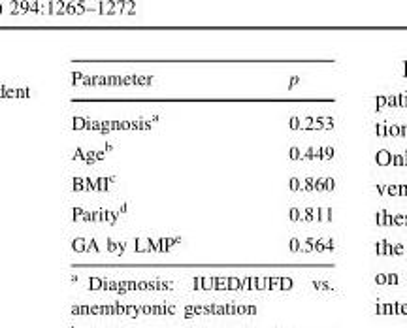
<table><thead><tr><td>Parameter</td><td>p</td></tr></thead><tbody><tr><td>Diagnosis<sup>a</sup></td><td>0.253</td></tr><tr><td>Age<sup>b</sup></td><td>0.449</td></tr><tr><td>BMI<sup>c</sup></td><td>0.860</td></tr><tr><td>Parity<sup>d</sup></td><td>0.811</td></tr><tr><td>GA by LMP<sup>e</sup></td><td>0.564</td></tr></tbody></table>